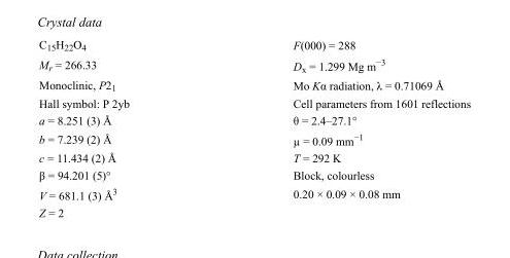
<table><tbody><tr><td>C<sub>15</sub>H<sub>22</sub>O<sub>4</sub></td><td>F(000) = 288</td></tr><tr><td>M<sub>r</sub> = 266.33</td><td>D<sub>x</sub> = 1.299 Mg m<sup>−3</sup></td></tr><tr><td>Monoclinic, P2<sub>1</sub></td><td>Mo Kα radiation, λ = 0.71069 Å</td></tr><tr><td>Hall symbol: P 2yb</td><td>Cell parameters from 1601 reflections</td></tr><tr><td>a = 8.251 (3) Å</td><td>θ = 2.4–27.1°</td></tr><tr><td>b = 7.239 (2) Å</td><td>µ = 0.09 mm<sup>−1</sup></td></tr><tr><td>c = 11.434 (2) Å</td><td>T = 292 K</td></tr><tr><td>β = 94.201 (5)°</td><td>Block, colourless</td></tr><tr><td>V = 681.1 (3) Å<sup>3</sup></td><td>0.20 × 0.09 × 0.08 mm</td></tr><tr><td>Z = 2</td><td></td></tr></tbody></table>